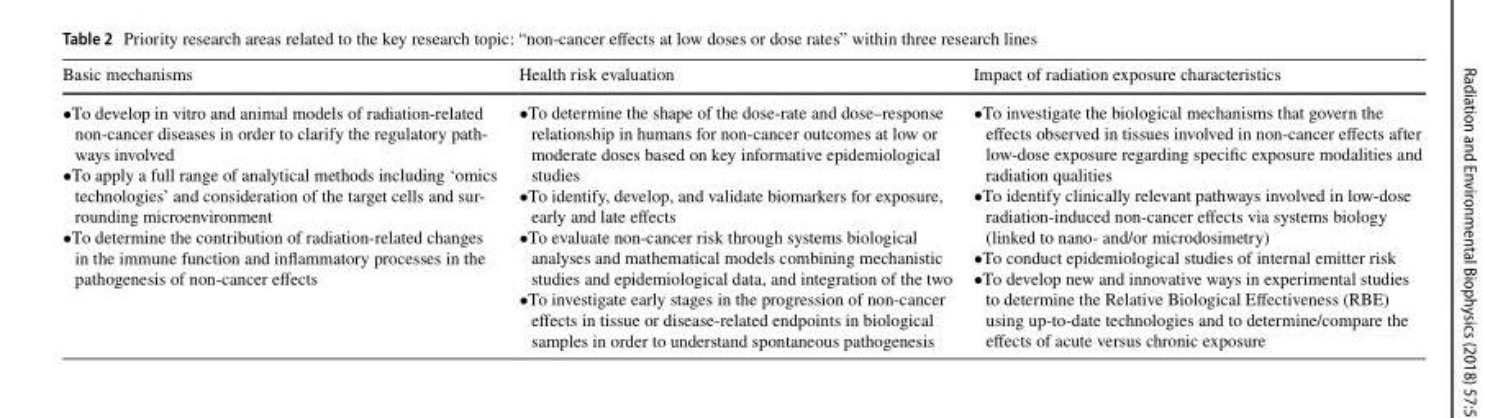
<table><thead><tr><td>Basic mechanisms</td><td>Health risk evaluation</td><td>Impact of radiation exposure characteristics</td></tr></thead><tbody><tr><td>•To develop in vitro and animal models of radiation-related non-cancer diseases in order to clarify the regulatory path- ways involved •To apply a full range of analytical methods including ‘omics technologies’ and consideration of the target cells and sur- rounding microenvironment •To determine the contribution of radiation-related changes in the immune function and inflammatory processes in the pathogenesis of non-cancer effects</td><td>•To determine the shape of the dose-rate and dose–response relationship in humans for non-cancer outcomes at low or moderate doses based on key informative epidemiological studies •To identify, develop, and validate biomarkers for exposure, early and late effects •To evaluate non-cancer risk through systems biological analyses and mathematical models combining mechanistic studies and epidemiological data, and integration of the two •To investigate early stages in the progression of non-cancer effects in tissue or disease-related endpoints in biological samples in order to understand spontaneous pathogenesis</td><td>•To investigate the biological mechanisms that govern the effects observed in tissues involved in non-cancer effects after low-dose exposure regarding specific exposure modalities and radiation qualities •To identify clinically relevant pathways involved in low-dose radiation-induced non-cancer effects via systems biology (linked to nano- and/or microdosimetry) •To conduct epidemiological studies of internal emitter risk •To develop new and innovative ways in experimental studies to determine the Relative Biological Effectiveness (RBE) using up-to-date technologies and to determine/compare the effects of acute versus chronic exposure</td></tr></tbody></table>